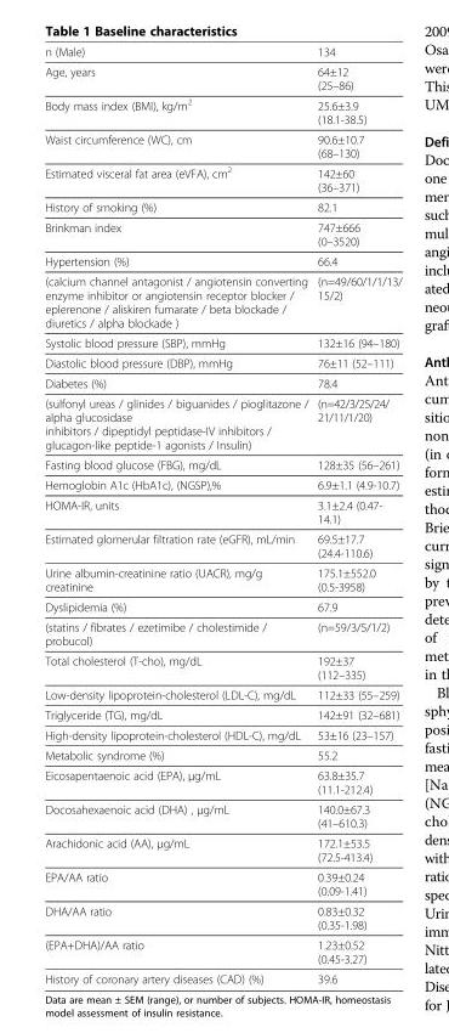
<table><tbody><tr><td>n (Male)</td><td>134</td></tr><tr><td>Age, years</td><td>64±12 (25–86)</td></tr><tr><td>Body mass index (BMI), kg/m<sup>2</sup></td><td>25.6±3.9 (18.1-38.5)</td></tr><tr><td>Waist circumference (WC), cm</td><td>90.6±10.7 (68–130)</td></tr><tr><td>Estimated visceral fat area (eVFA), cm<sup>2</sup></td><td>142±60 (36–371)</td></tr><tr><td>History of smoking (%)</td><td>82.1</td></tr><tr><td>Brinkman index</td><td>747±666 (0–3520)</td></tr><tr><td>Hypertension (%)</td><td>66.4</td></tr><tr><td>(calcium channel antagonist / angiotensin converting enzyme inhibitor or angiotensin receptor blocker / eplerenone / aliskiren fumarate / beta blockade / diuretics / alpha blockade )</td><td>(n=49/60/1/1/13/ 15/2)</td></tr><tr><td>Systolic blood pressure (SBP), mmHg</td><td>132±16 (94–180)</td></tr><tr><td>Diastolic blood pressure (DBP), mmHg</td><td>76±11 (52–111)</td></tr><tr><td>Diabetes (%)</td><td>78.4</td></tr><tr><td>(sulfonyl ureas / glinides / biguanides / pioglitazone / alpha glucosidase inhibitors / dipeptidyl peptidase-IV inhibitors / glucagon-like peptide-1 agonists / Insulin)</td><td>(n=42/3/25/24/ 21/11/1/20)</td></tr><tr><td>Fasting blood glucose (FBG), mg/dL</td><td>128±35 (56–261)</td></tr><tr><td>Hemoglobin A1c (HbA1c), (NGSP),%</td><td>6.9±1.1 (4.9-10.7)</td></tr><tr><td>HOMA-IR, units</td><td>3.1±2.4 (0.47- 14.1)</td></tr><tr><td>Estimated glomerular filtration rate (eGFR), mL/min</td><td>69.5±17.7 (24.4-110.6)</td></tr><tr><td>Urine albumin-creatinine ratio (UACR), mg/g creatinine</td><td>175.1±552.0 (0.5-3958)</td></tr><tr><td>Dyslipidemia (%)</td><td>67.9</td></tr><tr><td>(statins / fibrates / ezetimibe / cholestimide / probucol)</td><td>(n=59/3/5/1/2)</td></tr><tr><td>Total cholesterol (T-cho), mg/dL</td><td>192±37 (112–335)</td></tr><tr><td>Low-density lipoprotein-cholesterol (LDL-C), mg/dL</td><td>112±33 (55–259)</td></tr><tr><td>Triglyceride (TG), mg/dL</td><td>142±91 (32–681)</td></tr><tr><td>High-density lipoprotein-cholesterol (HDL-C), mg/dL</td><td>53±16 (23–157)</td></tr><tr><td>Metabolic syndrome (%)</td><td>55.2</td></tr><tr><td>Eicosapentaenoic acid (EPA), μg/mL</td><td>63.8±35.7 (11.1-212.4)</td></tr><tr><td>Docosahexaenoic acid (DHA) , μg/mL</td><td>140.0±67.3 (41–610.3)</td></tr><tr><td>Arachidonic acid (AA), μg/mL</td><td>172.1±53.5 (72.5-413.4)</td></tr><tr><td>EPA/AA ratio</td><td>0.39±0.24 (0.09-1.41)</td></tr><tr><td>DHA/AA ratio</td><td>0.83±0.32 (0.35-1.98)</td></tr><tr><td>(EPA+DHA)/AA ratio</td><td>1.23±0.52 (0.45-3.27)</td></tr><tr><td>History of coronary artery diseases (CAD) (%)</td><td>39.6</td></tr></tbody></table>